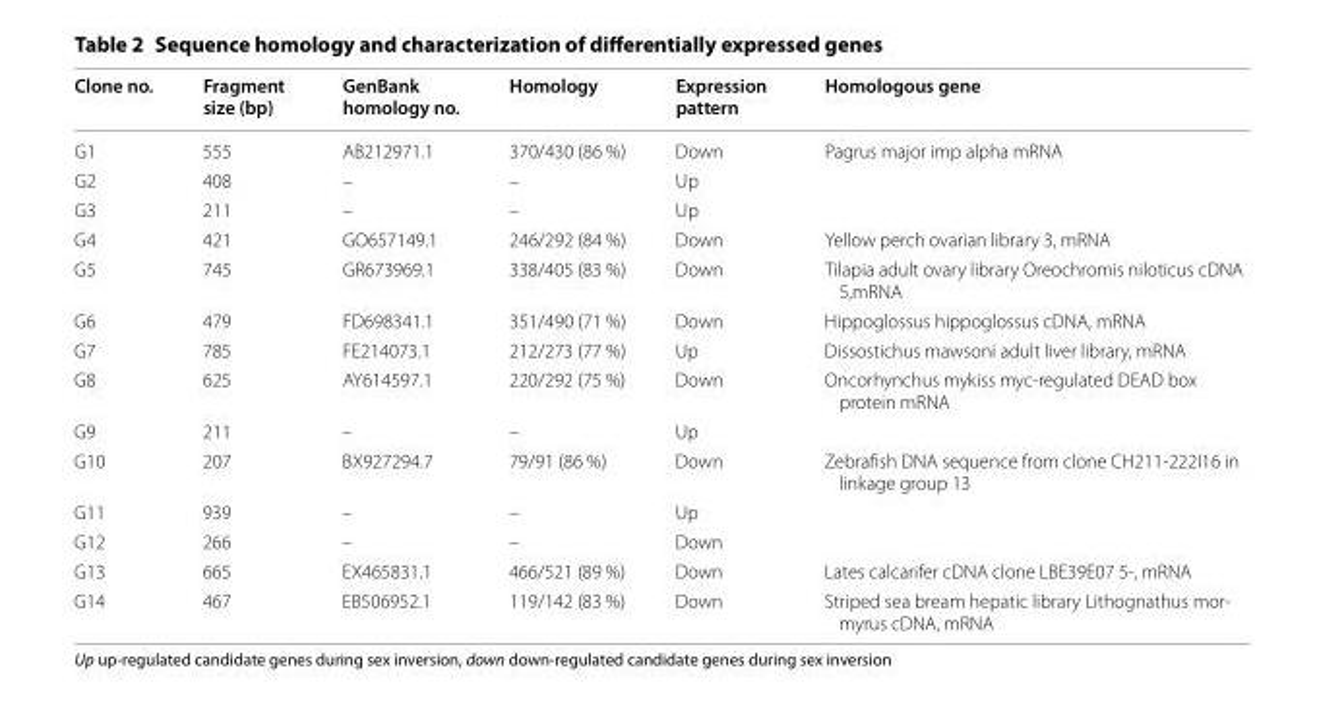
<table><thead><tr><td>Clone no.</td><td>Fragment size (bp)</td><td>GenBank homology no.</td><td>Homology</td><td>Expression pattern</td><td>Homologous gene</td></tr></thead><tbody><tr><td>G1</td><td>555</td><td>AB212971.1</td><td>370/430 (86 %)</td><td>Down</td><td>Pagrus major imp alpha mRNA</td></tr><tr><td>G2</td><td>408</td><td>–</td><td>–</td><td>Up</td><td></td></tr><tr><td>G3</td><td>211</td><td>–</td><td>–</td><td>Up</td><td></td></tr><tr><td>G4</td><td>421</td><td>GO657149.1</td><td>246/292 (84 %)</td><td>Down</td><td>Yellow perch ovarian library 3, mRNA</td></tr><tr><td>G5</td><td>745</td><td>GR673969.1</td><td>338/405 (83 %)</td><td>Down</td><td>Tilapia adult ovary library Oreochromis niloticus cDNA 5,mRNA</td></tr><tr><td>G6</td><td>479</td><td>FD698341.1</td><td>351/490 (71 %)</td><td>Down</td><td>Hippoglossus hippoglossus cDNA, mRNA</td></tr><tr><td>G7</td><td>785</td><td>FE214073.1</td><td>212/273 (77 %)</td><td>Up</td><td>Dissostichus mawsoni adult liver library, mRNA</td></tr><tr><td>G8</td><td>625</td><td>AY614597.1</td><td>220/292 (75 %)</td><td>Down</td><td>Oncorhynchus mykiss myc-regulated DEAD box protein mRNA</td></tr><tr><td>G9</td><td>211</td><td>–</td><td>–</td><td>Up</td><td></td></tr><tr><td>G10</td><td>207</td><td>BX927294.7</td><td>79/91 (86 %)</td><td>Down</td><td>Zebrafish DNA sequence from clone CH211-222I16 in linkage group 13</td></tr><tr><td>G11</td><td>939</td><td>–</td><td>–</td><td>Up</td><td></td></tr><tr><td>G12</td><td>266</td><td>–</td><td>–</td><td>Down</td><td></td></tr><tr><td>G13</td><td>665</td><td>EX465831.1</td><td>466/521 (89 %)</td><td>Down</td><td>Lates calcarifer cDNA clone LBE39E07 5-, mRNA</td></tr><tr><td>G14</td><td>467</td><td>EB506952.1</td><td>119/142 (83 %)</td><td>Down</td><td>Striped sea bream hepatic library Lithognathus mor- myrus cDNA, mRNA</td></tr></tbody></table>